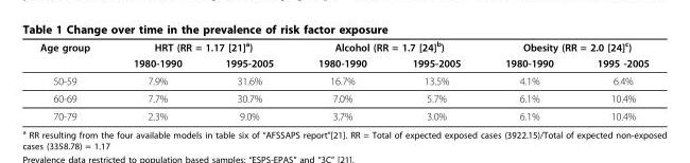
<table><thead><tr><td rowspan="2">Age group</td><td colspan="2">HRT (RR = 1.17 [21]<sup>a</sup>)</td><td colspan="2">Alcohol (RR = 1.7 [24]<sup>b</sup>)</td><td colspan="2">Obesity (RR = 2.0 [24]<sup>c</sup>)</td></tr><tr><td>1980-1990</td><td>1995-2005</td><td>1980-1990</td><td>1995-2005</td><td>1980-1990</td><td>1995 -2005</td></tr></thead><tbody><tr><td>50-59</td><td>7.9%</td><td>31.6%</td><td>16.7%</td><td>13.5%</td><td>4.1%</td><td>6.4%</td></tr><tr><td>60-69</td><td>7.7%</td><td>30.7%</td><td>7.0%</td><td>5.7%</td><td>6.1%</td><td>10.4%</td></tr><tr><td>70-79</td><td>2.3%</td><td>9.0%</td><td>3.7%</td><td>3.0%</td><td>6.1%</td><td>10.4%</td></tr></tbody></table>